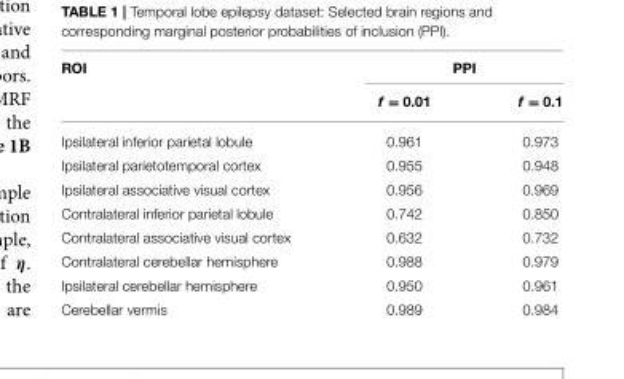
<table><thead><tr><td rowspan="2">ROI</td><td colspan="2">PPI</td></tr><tr><td>f = 0.01</td><td>f = 0.1</td></tr></thead><tbody><tr><td>Ipsilateral inferior parietal lobule</td><td>0.961</td><td>0.973</td></tr><tr><td>Ipsilateral parietotemporal cortex</td><td>0.955</td><td>0.948</td></tr><tr><td>Ipsilateral associative visual cortex</td><td>0.956</td><td>0.969</td></tr><tr><td>Contralateral inferior parietal lobule</td><td>0.742</td><td>0.850</td></tr><tr><td>Contralateral associative visual cortex</td><td>0.632</td><td>0.732</td></tr><tr><td>Contralateral cerebellar hemisphere</td><td>0.988</td><td>0.979</td></tr><tr><td>Ipsilateral cerebellar hemisphere</td><td>0.950</td><td>0.961</td></tr><tr><td>Cerebellar vermis</td><td>0.989</td><td>0.984</td></tr></tbody></table>